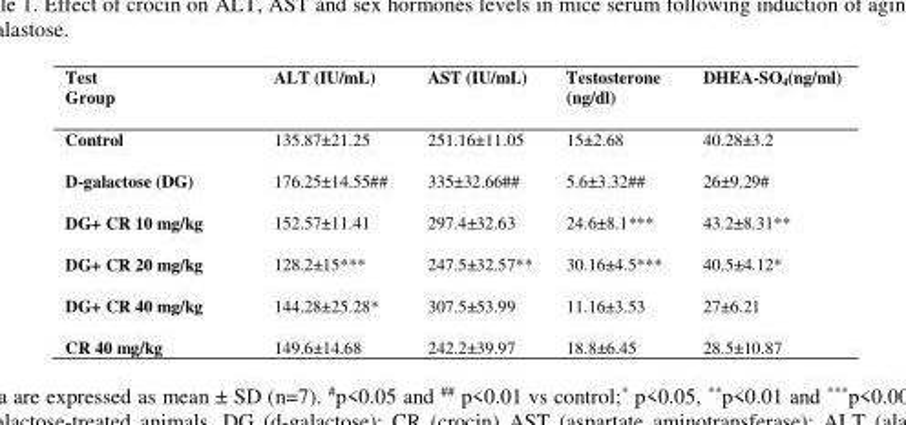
<table><thead><tr><td>Test Group</td><td>ALT (IU/mL)</td><td>AST (IU/mL)</td><td>Testosterone (ng/dl)</td><td>DHEA-SO<sub>4</sub>(ng/ml)</td></tr></thead><tbody><tr><td>Control</td><td>135.87±21.25</td><td>251.16±11.05</td><td>15±2.68</td><td>40.28±3.2</td></tr><tr><td>D-galactose (DG)</td><td>176.25±14.55##</td><td>335±32.66##</td><td>5.6±3.32##</td><td>26±9.29#</td></tr><tr><td>DG+ CR 10 mg/kg</td><td>152.57±11.41</td><td>297.4±32.63</td><td>24.6±8.1***</td><td>43.2±8.31**</td></tr><tr><td>DG+ CR 20 mg/kg</td><td>128.2±15***</td><td>247.5±32.57**</td><td>30.16±4.5***</td><td>40.5±4.12*</td></tr><tr><td>DG+ CR 40 mg/kg</td><td>144.28±25.28*</td><td>307.5±53.99</td><td>11.16±3.53</td><td>27±6.21</td></tr><tr><td>CR 40 mg/kg</td><td>149.6±14.68</td><td>242.2±39.97</td><td>18.8±6.45</td><td>28.5±10.87</td></tr></tbody></table>